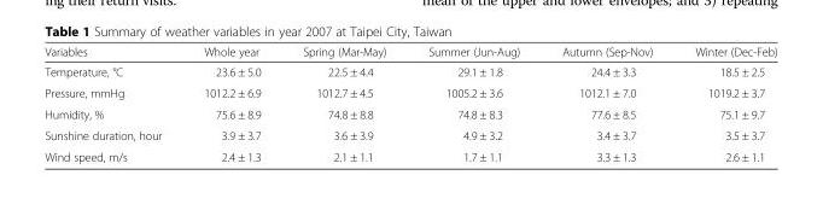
<table><thead><tr><td>Variables</td><td>Whole year</td><td>Spring (Mar-May)</td><td>Summer (Jun-Aug)</td><td>Autumn (Sep-Nov)</td><td>Winter (Dec-Feb)</td></tr></thead><tbody><tr><td>Temperature, °C</td><td>23.6 ± 5.0</td><td>22.5 ± 4.4</td><td>29.1 ± 1.8</td><td>24.4 ± 3.3</td><td>18.5 ± 2.5</td></tr><tr><td>Pressure, mmHg</td><td>1012.2 ± 6.9</td><td>1012.7 ± 4.5</td><td>1005.2 ± 3.6</td><td>1012.1 ± 7.0</td><td>1019.2 ± 3.7</td></tr><tr><td>Humidity, %</td><td>75.6 ± 8.9</td><td>74.8 ± 8.8</td><td>74.8 ± 8.3</td><td>77.6 ± 8.5</td><td>75.1 ± 9.7</td></tr><tr><td>Sunshine duration, hour</td><td>3.9 ± 3.7</td><td>3.6 ± 3.9</td><td>4.9 ± 3.2</td><td>3.4 ± 3.7</td><td>3.5 ± 3.7</td></tr><tr><td>Wind speed, m/s</td><td>2.4 ± 1.3</td><td>2.1 ± 1.1</td><td>1.7 ± 1.1</td><td>3.3 ± 1.3</td><td>2.6 ± 1.1</td></tr></tbody></table>